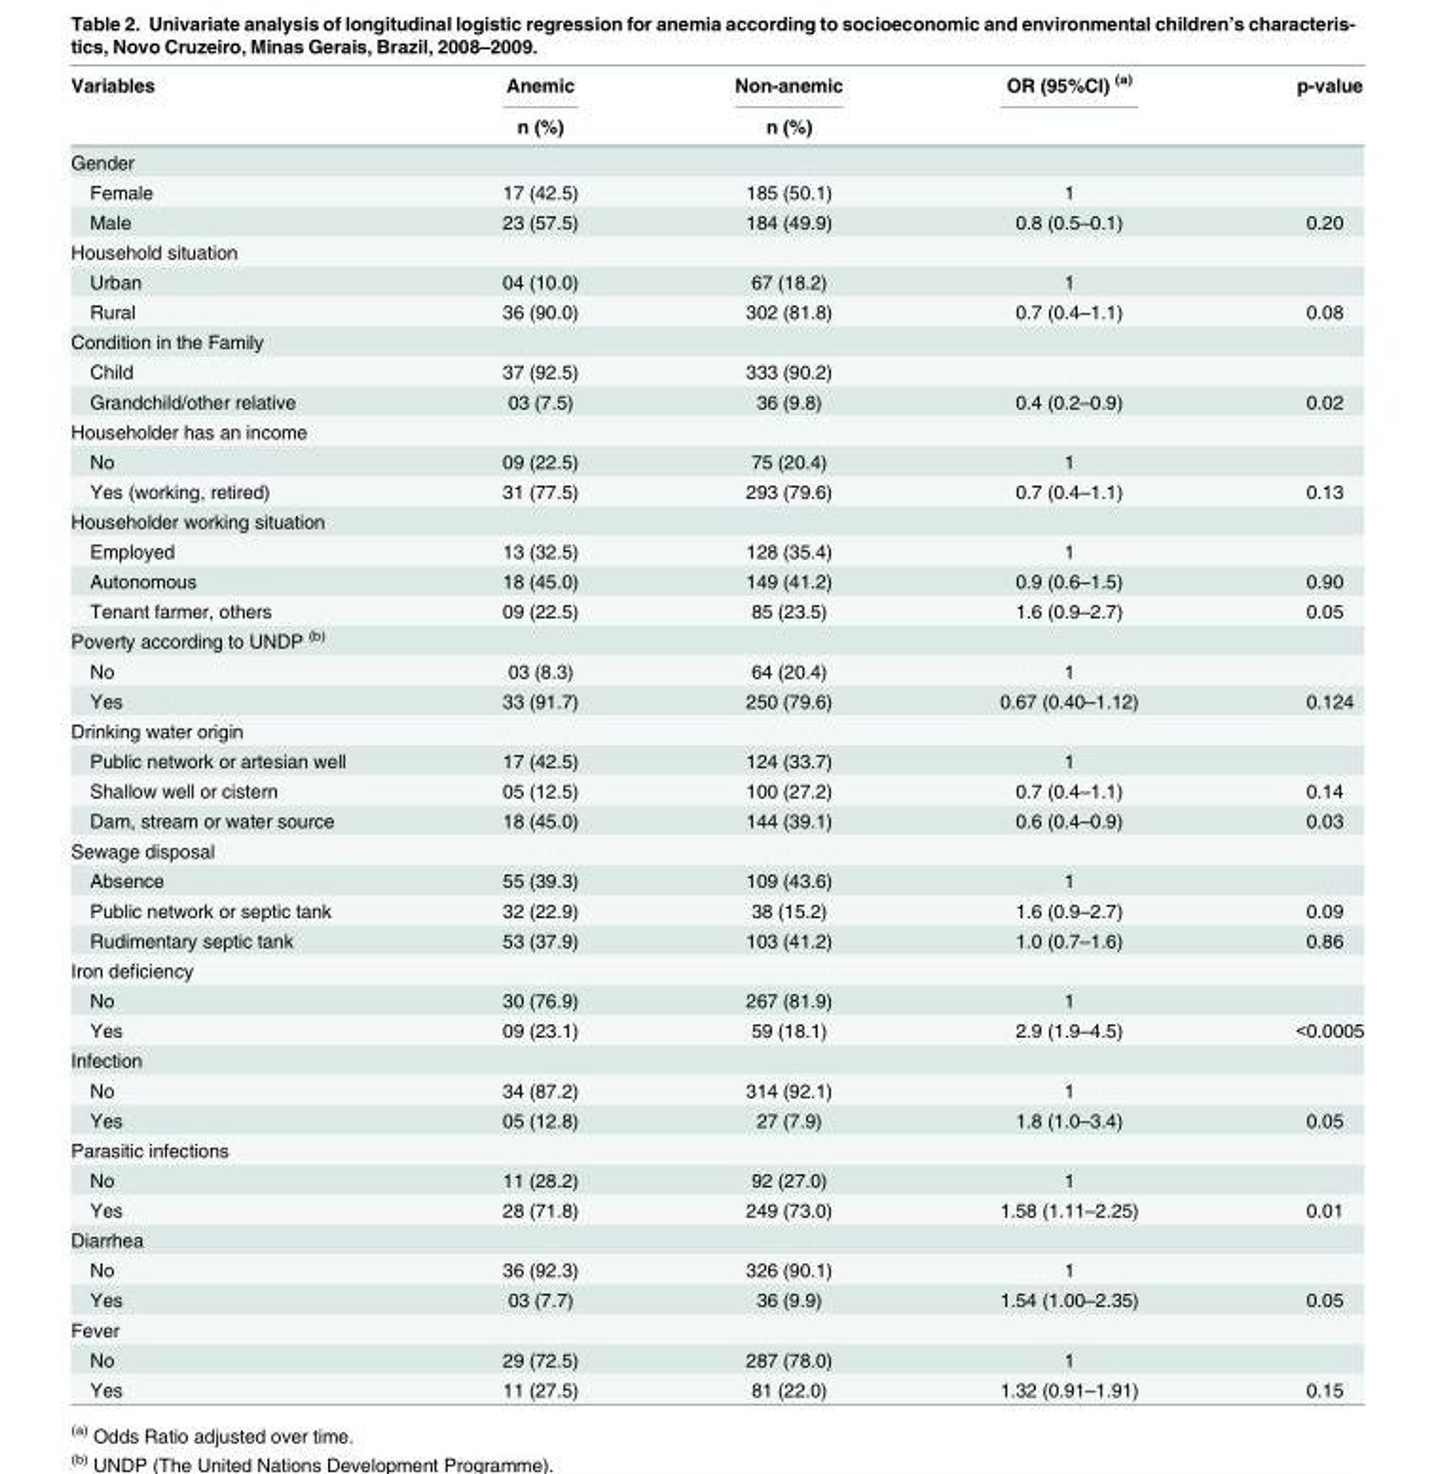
<table><thead><tr><td rowspan="2">Variables</td><td rowspan="2">Anemic n (%)</td><td rowspan="2">Non-anemic n (%)</td><td rowspan="2">OR (95%CI) <sup>(a)</sup></td><td rowspan="2">p-value</td></tr><tr></tr></thead><tbody><tr><td colspan="5">Gender</td></tr><tr><td>Female</td><td>17 (42.5)</td><td>185 (50.1)</td><td>1</td><td></td></tr><tr><td>Male</td><td>23 (57.5)</td><td>184 (49.9)</td><td>0.8 (0.5–0.1)</td><td>0.20</td></tr><tr><td colspan="5">Household situation</td></tr><tr><td>Urban</td><td>04 (10.0)</td><td>67 (18.2)</td><td>1</td><td></td></tr><tr><td>Rural</td><td>36 (90.0)</td><td>302 (81.8)</td><td>0.7 (0.4–1.1)</td><td>0.08</td></tr><tr><td colspan="5">Condition in the Family</td></tr><tr><td>Child</td><td>37 (92.5)</td><td>333 (90.2)</td><td></td><td></td></tr><tr><td>Grandchild/other relative</td><td>03 (7.5)</td><td>36 (9.8)</td><td>0.4 (0.2–0.9)</td><td>0.02</td></tr><tr><td colspan="5">Householder has an income</td></tr><tr><td>No</td><td>09 (22.5)</td><td>75 (20.4)</td><td>1</td><td></td></tr><tr><td>Yes (working, retired)</td><td>31 (77.5)</td><td>293 (79.6)</td><td>0.7 (0.4–1.1)</td><td>0.13</td></tr><tr><td colspan="5">Householder working situation</td></tr><tr><td>Employed</td><td>13 (32.5)</td><td>128 (35.4)</td><td>1</td><td></td></tr><tr><td>Autonomous</td><td>18 (45.0)</td><td>149 (41.2)</td><td>0.9 (0.6–1.5)</td><td>0.90</td></tr><tr><td>Tenant farmer, others</td><td>09 (22.5)</td><td>85 (23.5)</td><td>1.6 (0.9–2.7)</td><td>0.05</td></tr><tr><td colspan="5">Poverty according to UNDP <sup>(b)</sup></td></tr><tr><td>No</td><td>03 (8.3)</td><td>64 (20.4)</td><td>1</td><td></td></tr><tr><td>Yes</td><td>33 (91.7)</td><td>250 (79.6)</td><td>0.67 (0.40–1.12)</td><td>0.124</td></tr><tr><td colspan="5">Drinking water origin</td></tr><tr><td>Public network or artesian well</td><td>17 (42.5)</td><td>124 (33.7)</td><td>1</td><td></td></tr><tr><td>Shallow well or cistern</td><td>05 (12.5)</td><td>100 (27.2)</td><td>0.7 (0.4–1.1)</td><td>0.14</td></tr><tr><td>Dam, stream or water source</td><td>18 (45.0)</td><td>144 (39.1)</td><td>0.6 (0.4–0.9)</td><td>0.03</td></tr><tr><td colspan="5">Sewage disposal</td></tr><tr><td>Absence</td><td>55 (39.3)</td><td>109 (43.6)</td><td>1</td><td></td></tr><tr><td>Public network or septic tank</td><td>32 (22.9)</td><td>38 (15.2)</td><td>1.6 (0.9–2.7)</td><td>0.09</td></tr><tr><td>Rudimentary septic tank</td><td>53 (37.9)</td><td>103 (41.2)</td><td>1.0 (0.7–1.6)</td><td>0.86</td></tr><tr><td colspan="5">Iron deficiency</td></tr><tr><td>No</td><td>30 (76.9)</td><td>267 (81.9)</td><td>1</td><td></td></tr><tr><td>Yes</td><td>09 (23.1)</td><td>59 (18.1)</td><td>2.9 (1.9–4.5)</td><td>&lt;0.0005</td></tr><tr><td colspan="5">Infection</td></tr><tr><td>No</td><td>34 (87.2)</td><td>314 (92.1)</td><td>1</td><td></td></tr><tr><td>Yes</td><td>05 (12.8)</td><td>27 (7.9)</td><td>1.8 (1.0–3.4)</td><td>0.05</td></tr><tr><td colspan="5">Parasitic infections</td></tr><tr><td>No</td><td>11 (28.2)</td><td>92 (27.0)</td><td>1</td><td></td></tr><tr><td>Yes</td><td>28 (71.8)</td><td>249 (73.0)</td><td>1.58 (1.11–2.25)</td><td>0.01</td></tr><tr><td colspan="5">Diarrhea</td></tr><tr><td>No</td><td>36 (92.3)</td><td>326 (90.1)</td><td>1</td><td></td></tr><tr><td>Yes</td><td>03 (7.7)</td><td>36 (9.9)</td><td>1.54 (1.00–2.35)</td><td>0.05</td></tr><tr><td colspan="5">Fever</td></tr><tr><td>No</td><td>29 (72.5)</td><td>287 (78.0)</td><td>1</td><td></td></tr><tr><td>Yes</td><td>11 (27.5)</td><td>81 (22.0)</td><td>1.32 (0.91–1.91)</td><td>0.15</td></tr></tbody></table>